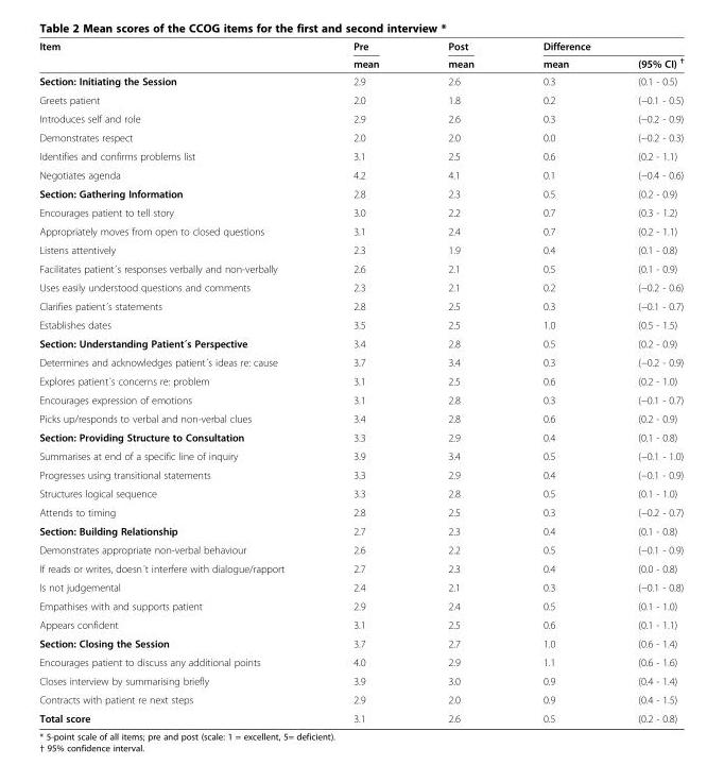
<table><thead><tr><td rowspan="2">Item</td><td rowspan="2">Pre mean</td><td rowspan="2">Post mean</td><td colspan="2">Difference</td></tr><tr><td>mean</td><td>(95% CI) <sup>†</sup></td></tr></thead><tbody><tr><td>Section: Initiating the Session</td><td>2.9</td><td>2.6</td><td>0.3</td><td>(0.1 - 0.5)</td></tr><tr><td>Greets patient</td><td>2.0</td><td>1.8</td><td>0.2</td><td>(−0.1 - 0.5)</td></tr><tr><td>Introduces self and role</td><td>2.9</td><td>2.6</td><td>0.3</td><td>(−0.2 - 0.9)</td></tr><tr><td>Demonstrates respect</td><td>2.0</td><td>2.0</td><td>0.0</td><td>(−0.2 - 0.3)</td></tr><tr><td>Identifies and confirms problems list</td><td>3.1</td><td>2.5</td><td>0.6</td><td>(0.2 - 1.1)</td></tr><tr><td>Negotiates agenda</td><td>4.2</td><td>4.1</td><td>0.1</td><td>(−0.4 - 0.6)</td></tr><tr><td>Section: Gathering Information</td><td>2.8</td><td>2.3</td><td>0.5</td><td>(0.2 - 0.9)</td></tr><tr><td>Encourages patient to tell story</td><td>3.0</td><td>2.2</td><td>0.7</td><td>(0.3 - 1.2)</td></tr><tr><td>Appropriately moves from open to closed questions</td><td>3.1</td><td>2.4</td><td>0.7</td><td>(0.2 - 1.1)</td></tr><tr><td>Listens attentively</td><td>2.3</td><td>1.9</td><td>0.4</td><td>(0.1 - 0.8)</td></tr><tr><td>Facilitates patient´s responses verbally and non-verbally</td><td>2.6</td><td>2.1</td><td>0.5</td><td>(0.1 - 0.9)</td></tr><tr><td>Uses easily understood questions and comments</td><td>2.3</td><td>2.1</td><td>0.2</td><td>(−0.2 - 0.6)</td></tr><tr><td>Clarifies patient´s statements</td><td>2.8</td><td>2.5</td><td>0.3</td><td>(−0.1 - 0.7)</td></tr><tr><td>Establishes dates</td><td>3.5</td><td>2.5</td><td>1.0</td><td>(0.5 - 1.5)</td></tr><tr><td>Section: Understanding Patient´s Perspective</td><td>3.4</td><td>2.8</td><td>0.5</td><td>(0.2 - 0.9)</td></tr><tr><td>Determines and acknowledges patient´s ideas re: cause</td><td>3.7</td><td>3.4</td><td>0.3</td><td>(−0.2 - 0.9)</td></tr><tr><td>Explores patient´s concerns re: problem</td><td>3.1</td><td>2.5</td><td>0.6</td><td>(0.2 - 1.0)</td></tr><tr><td>Encourages expression of emotions</td><td>3.1</td><td>2.8</td><td>0.3</td><td>(−0.1 - 0.7)</td></tr><tr><td>Picks up/responds to verbal and non-verbal clues</td><td>3.4</td><td>2.8</td><td>0.6</td><td>(0.2 - 0.9)</td></tr><tr><td>Section: Providing Structure to Consultation</td><td>3.3</td><td>2.9</td><td>0.4</td><td>(0.1 - 0.8)</td></tr><tr><td>Summarises at end of a specific line of inquiry</td><td>3.9</td><td>3.4</td><td>0.5</td><td>(−0.1 - 1.0)</td></tr><tr><td>Progresses using transitional statements</td><td>3.3</td><td>2.9</td><td>0.4</td><td>(−0.1 - 0.9)</td></tr><tr><td>Structures logical sequence</td><td>3.3</td><td>2.8</td><td>0.5</td><td>(0.1 - 1.0)</td></tr><tr><td>Attends to timing</td><td>2.8</td><td>2.5</td><td>0.3</td><td>(−0.2 - 0.7)</td></tr><tr><td>Section: Building Relationship</td><td>2.7</td><td>2.3</td><td>0.4</td><td>(0.1 - 0.8)</td></tr><tr><td>Demonstrates appropriate non-verbal behaviour</td><td>2.6</td><td>2.2</td><td>0.5</td><td>(−0.1 - 0.9)</td></tr><tr><td>If reads or writes, doesn´t interfere with dialogue/rapport</td><td>2.7</td><td>2.3</td><td>0.4</td><td>(0.0 - 0.8)</td></tr><tr><td>Is not judgemental</td><td>2.4</td><td>2.1</td><td>0.3</td><td>(−0.1 - 0.8)</td></tr><tr><td>Empathises with and supports patient</td><td>2.9</td><td>2.4</td><td>0.5</td><td>(0.1 - 1.0)</td></tr><tr><td>Appears confident</td><td>3.1</td><td>2.5</td><td>0.6</td><td>(0.1 - 1.1)</td></tr><tr><td>Section: Closing the Session</td><td>3.7</td><td>2.7</td><td>1.0</td><td>(0.6 - 1.4)</td></tr><tr><td>Encourages patient to discuss any additional points</td><td>4.0</td><td>2.9</td><td>1.1</td><td>(0.6 - 1.6)</td></tr><tr><td>Closes interview by summarising briefly</td><td>3.9</td><td>3.0</td><td>0.9</td><td>(0.4 - 1.4)</td></tr><tr><td>Contracts with patient re next steps</td><td>2.9</td><td>2.0</td><td>0.9</td><td>(0.4 - 1.5)</td></tr><tr><td>Total score</td><td>3.1</td><td>2.6</td><td>0.5</td><td>(0.2 - 0.8)</td></tr></tbody></table>